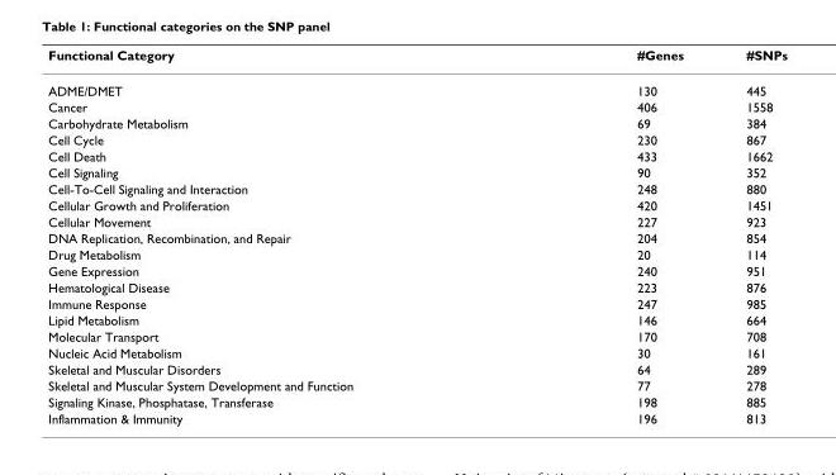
<table><thead><tr><td>Functional Category</td><td>#Genes</td><td>#SNPs</td></tr></thead><tbody><tr><td>ADME/DMET</td><td>130</td><td>445</td></tr><tr><td>Cancer</td><td>406</td><td>1558</td></tr><tr><td>Carbohydrate Metabolism</td><td>69</td><td>384</td></tr><tr><td>Cell Cycle</td><td>230</td><td>867</td></tr><tr><td>Cell Death</td><td>433</td><td>1662</td></tr><tr><td>Cell Signaling</td><td>90</td><td>352</td></tr><tr><td>Cell-To-Cell Signaling and Interaction</td><td>248</td><td>880</td></tr><tr><td>Cellular Growth and Proliferation</td><td>420</td><td>1451</td></tr><tr><td>Cellular Movement</td><td>227</td><td>923</td></tr><tr><td>DNA Replication, Recombination, and Repair</td><td>204</td><td>854</td></tr><tr><td>Drug Metabolism</td><td>20</td><td>114</td></tr><tr><td>Gene Expression</td><td>240</td><td>951</td></tr><tr><td>Hematological Disease</td><td>223</td><td>876</td></tr><tr><td>Immune Response</td><td>247</td><td>985</td></tr><tr><td>Lipid Metabolism</td><td>146</td><td>664</td></tr><tr><td>Molecular Transport</td><td>170</td><td>708</td></tr><tr><td>Nucleic Acid Metabolism</td><td>30</td><td>161</td></tr><tr><td>Skeletal and Muscular Disorders</td><td>64</td><td>289</td></tr><tr><td>Skeletal and Muscular System Development and Function</td><td>77</td><td>278</td></tr><tr><td>Signaling Kinase, Phosphatase, Transferase</td><td>198</td><td>885</td></tr><tr><td>Inflammation &amp; Immunity</td><td>196</td><td>813</td></tr></tbody></table>